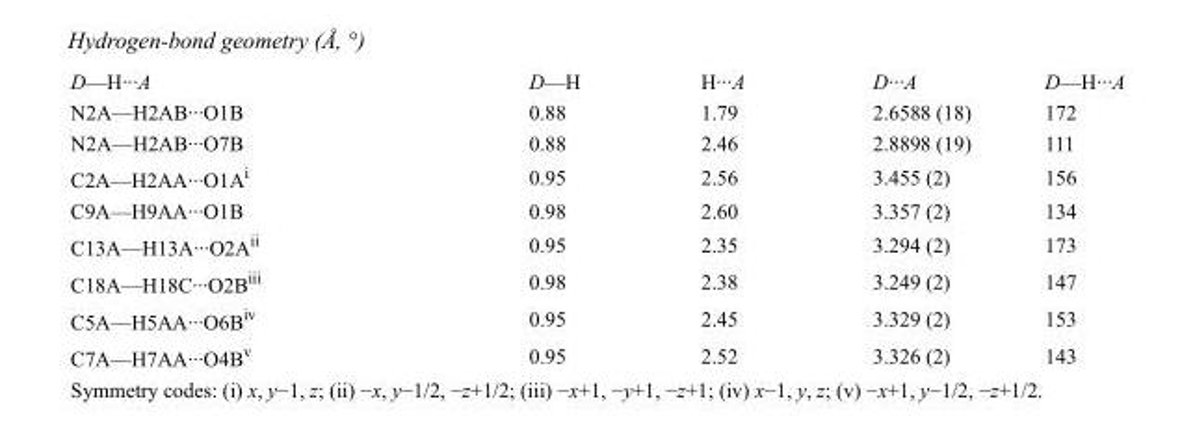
<table><tbody><tr><td>D—H···A</td><td>D—H</td><td>H···A</td><td>D···A</td><td>D—H···A</td></tr><tr><td>N2A—H2AB···O1B</td><td>0.88</td><td>1.79</td><td>2.6588 (18)</td><td>172</td></tr><tr><td>N2A—H2AB···O7B</td><td>0.88</td><td>2.46</td><td>2.8898 (19)</td><td>111</td></tr><tr><td>C2A—H2AA···O1A<sup>i</sup></td><td>0.95</td><td>2.56</td><td>3.455 (2)</td><td>156</td></tr><tr><td>C9A—H9AA···O1B</td><td>0.98</td><td>2.60</td><td>3.357 (2)</td><td>134</td></tr><tr><td>C13A—H13A···O2A<sup>ii</sup></td><td>0.95</td><td>2.35</td><td>3.294 (2)</td><td>173</td></tr><tr><td>C18A—H18C···O2B<sup>iii</sup></td><td>0.98</td><td>2.38</td><td>3.249 (2)</td><td>147</td></tr><tr><td>C5A—H5AA···O6B<sup>iv</sup></td><td>0.95</td><td>2.45</td><td>3.329 (2)</td><td>153</td></tr><tr><td>C7A—H7AA···O4B<sup>v</sup></td><td>0.95</td><td>2.52</td><td>3.326 (2)</td><td>143</td></tr></tbody></table>